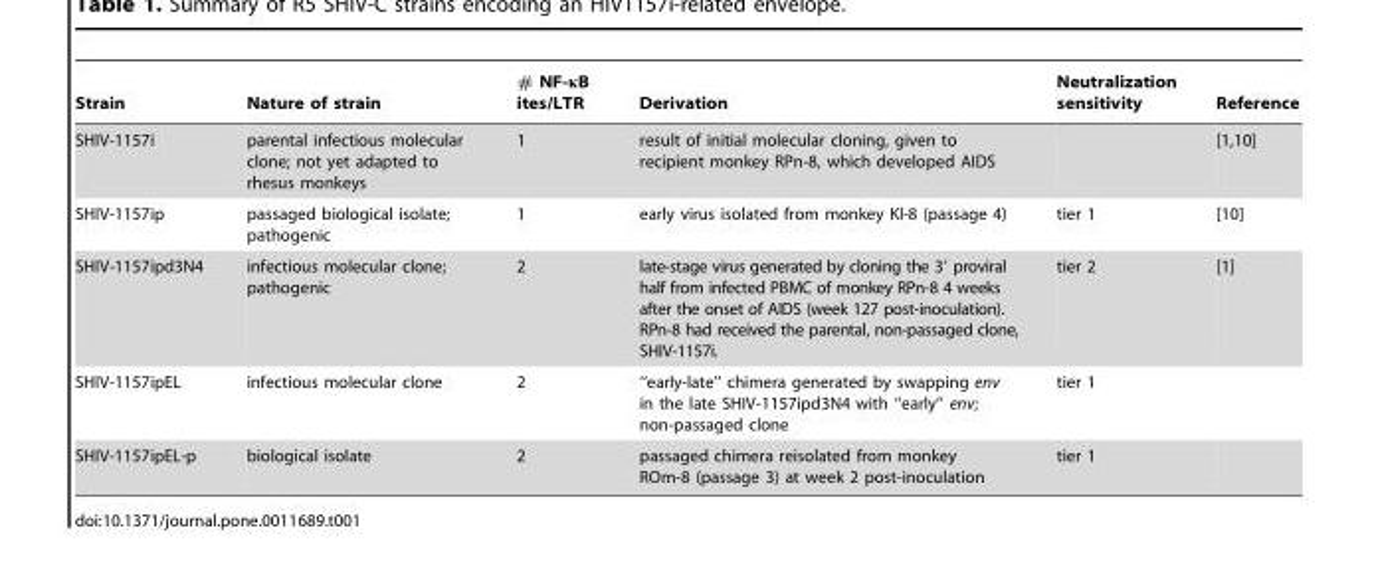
<table><thead><tr><td>Strain</td><td>Nature of strain</td><td># NF-κB ites/LTR</td><td>Derivation</td><td>Neutralization sensitivity</td><td>Reference</td></tr></thead><tbody><tr><td>SHIV-1157i</td><td>parental infectious molecular clone; not yet adapted to rhesus monkeys</td><td>1</td><td>result of initial molecular cloning, given to recipient monkey RPn-8, which developed AIDS</td><td></td><td>[1,10]</td></tr><tr><td>SHIV-1157ip</td><td>passaged biological isolate; pathogenic</td><td>1</td><td>early virus isolated from monkey Kl-8 (passage 4)</td><td>tier 1</td><td>[10]</td></tr><tr><td>SHIV-1157ipd3N4</td><td>infectious molecular clone; pathogenic</td><td>2</td><td>late-stage virus generated by cloning the 3′ proviral half from infected PBMC of monkey RPn-8 4 weeks after the onset of AIDS (week 127 post-inoculation). RPn-8 had received the parental, non-passaged clone, SHIV-1157i.</td><td>tier 2</td><td>[1]</td></tr><tr><td>SHIV-1157ipEL</td><td>infectious molecular clone</td><td>2</td><td>‘‘early-late’’ chimera generated by swapping env in the late SHIV-1157ipd3N4 with ‘‘early’’ env; non-passaged clone</td><td>tier 1</td><td></td></tr><tr><td>SHIV-1157ipEL-p</td><td>biological isolate</td><td>2</td><td>passaged chimera reisolated from monkey ROm-8 (passage 3) at week 2 post-inoculation</td><td>tier 1</td><td></td></tr></tbody></table>